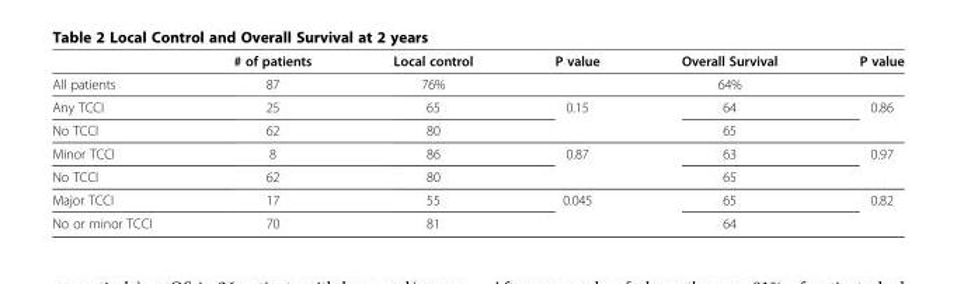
<table><thead><tr><td></td><td># of patients</td><td>Local control</td><td>P value</td><td>Overall Survival</td><td>P value</td></tr></thead><tbody><tr><td>All patients</td><td>87</td><td>76%</td><td></td><td>64%</td><td></td></tr><tr><td>Any TCCI</td><td>25</td><td>65</td><td>0.15</td><td>64</td><td>0.86</td></tr><tr><td>No TCCI</td><td>62</td><td>80</td><td></td><td>65</td><td></td></tr><tr><td>Minor TCCI</td><td>8</td><td>86</td><td>0.87</td><td>63</td><td>0.97</td></tr><tr><td>No TCCI</td><td>62</td><td>80</td><td></td><td>65</td><td></td></tr><tr><td>Major TCCI</td><td>17</td><td>55</td><td>0.045</td><td>65</td><td>0.82</td></tr><tr><td>No or minor TCCI</td><td>70</td><td>81</td><td></td><td>64</td><td></td></tr></tbody></table>